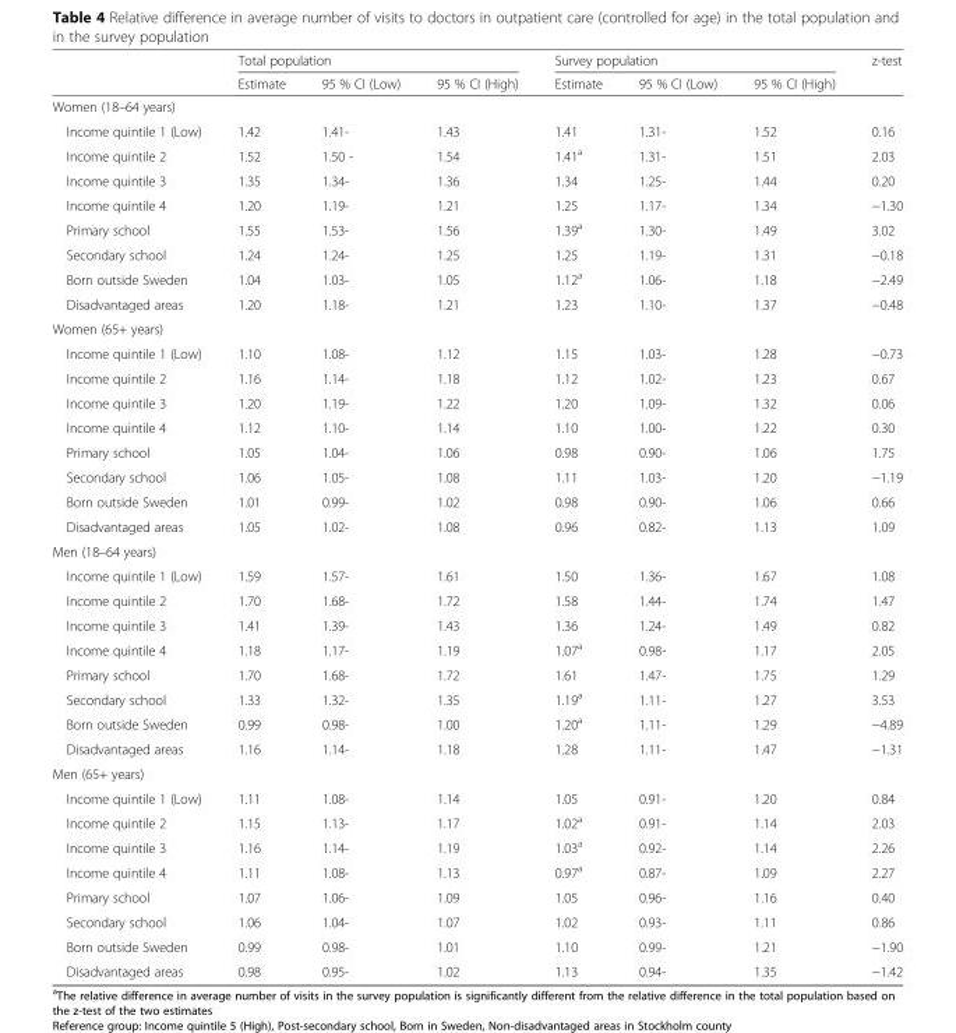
<table><thead><tr><td rowspan="2"></td><td colspan="3">Total population</td><td colspan="3">Survey population</td><td rowspan="2">z-test</td></tr><tr><td>Estimate</td><td>95 % CI (Low)</td><td>95 % CI (High)</td><td>Estimate</td><td>95 % CI (Low)</td><td>95 % CI (High)</td></tr></thead><tbody><tr><td colspan="8">Women (18–64 years)</td></tr><tr><td>Income quintile 1 (Low)</td><td>1.42</td><td>1.41-</td><td>1.43</td><td>1.41</td><td>1.31-</td><td>1.52</td><td>0.16</td></tr><tr><td>Income quintile 2</td><td>1.52</td><td>1.50 -</td><td>1.54</td><td>1.41<sup>a</sup></td><td>1.31-</td><td>1.51</td><td>2.03</td></tr><tr><td>Income quintile 3</td><td>1.35</td><td>1.34-</td><td>1.36</td><td>1.34</td><td>1.25-</td><td>1.44</td><td>0.20</td></tr><tr><td>Income quintile 4</td><td>1.20</td><td>1.19-</td><td>1.21</td><td>1.25</td><td>1.17-</td><td>1.34</td><td>−1.30</td></tr><tr><td>Primary school</td><td>1.55</td><td>1.53-</td><td>1.56</td><td>1.39<sup>a</sup></td><td>1.30-</td><td>1.49</td><td>3.02</td></tr><tr><td>Secondary school</td><td>1.24</td><td>1.24-</td><td>1.25</td><td>1.25</td><td>1.19-</td><td>1.31</td><td>−0.18</td></tr><tr><td>Born outside Sweden</td><td>1.04</td><td>1.03-</td><td>1.05</td><td>1.12<sup>a</sup></td><td>1.06-</td><td>1.18</td><td>−2.49</td></tr><tr><td>Disadvantaged areas</td><td>1.20</td><td>1.18-</td><td>1.21</td><td>1.23</td><td>1.10-</td><td>1.37</td><td>−0.48</td></tr><tr><td colspan="8">Women (65+ years)</td></tr><tr><td>Income quintile 1 (Low)</td><td>1.10</td><td>1.08-</td><td>1.12</td><td>1.15</td><td>1.03-</td><td>1.28</td><td>−0.73</td></tr><tr><td>Income quintile 2</td><td>1.16</td><td>1.14-</td><td>1.18</td><td>1.12</td><td>1.02-</td><td>1.23</td><td>0.67</td></tr><tr><td>Income quintile 3</td><td>1.20</td><td>1.19-</td><td>1.22</td><td>1.20</td><td>1.09-</td><td>1.32</td><td>0.06</td></tr><tr><td>Income quintile 4</td><td>1.12</td><td>1.10-</td><td>1.14</td><td>1.10</td><td>1.00-</td><td>1.22</td><td>0.30</td></tr><tr><td>Primary school</td><td>1.05</td><td>1.04-</td><td>1.06</td><td>0.98</td><td>0.90-</td><td>1.06</td><td>1.75</td></tr><tr><td>Secondary school</td><td>1.06</td><td>1.05-</td><td>1.08</td><td>1.11</td><td>1.03-</td><td>1.20</td><td>−1.19</td></tr><tr><td>Born outside Sweden</td><td>1.01</td><td>0.99-</td><td>1.02</td><td>0.98</td><td>0.90-</td><td>1.06</td><td>0.66</td></tr><tr><td>Disadvantaged areas</td><td>1.05</td><td>1.02-</td><td>1.08</td><td>0.96</td><td>0.82-</td><td>1.13</td><td>1.09</td></tr><tr><td colspan="8">Men (18–64 years)</td></tr><tr><td>Income quintile 1 (Low)</td><td>1.59</td><td>1.57-</td><td>1.61</td><td>1.50</td><td>1.36-</td><td>1.67</td><td>1.08</td></tr><tr><td>Income quintile 2</td><td>1.70</td><td>1.68-</td><td>1.72</td><td>1.58</td><td>1.44-</td><td>1.74</td><td>1.47</td></tr><tr><td>Income quintile 3</td><td>1.41</td><td>1.39-</td><td>1.43</td><td>1.36</td><td>1.24-</td><td>1.49</td><td>0.82</td></tr><tr><td>Income quintile 4</td><td>1.18</td><td>1.17-</td><td>1.19</td><td>1.07<sup>a</sup></td><td>0.98-</td><td>1.17</td><td>2.05</td></tr><tr><td>Primary school</td><td>1.70</td><td>1.68-</td><td>1.72</td><td>1.61</td><td>1.47-</td><td>1.75</td><td>1.29</td></tr><tr><td>Secondary school</td><td>1.33</td><td>1.32-</td><td>1.35</td><td>1.19<sup>a</sup></td><td>1.11-</td><td>1.27</td><td>3.53</td></tr><tr><td>Born outside Sweden</td><td>0.99</td><td>0.98-</td><td>1.00</td><td>1.20<sup>a</sup></td><td>1.11-</td><td>1.29</td><td>−4.89</td></tr><tr><td>Disadvantaged areas</td><td>1.16</td><td>1.14-</td><td>1.18</td><td>1.28</td><td>1.11-</td><td>1.47</td><td>−1.31</td></tr><tr><td colspan="8">Men (65+ years)</td></tr><tr><td>Income quintile 1 (Low)</td><td>1.11</td><td>1.08-</td><td>1.14</td><td>1.05</td><td>0.91-</td><td>1.20</td><td>0.84</td></tr><tr><td>Income quintile 2</td><td>1.15</td><td>1.13-</td><td>1.17</td><td>1.02<sup>a</sup></td><td>0.91-</td><td>1.14</td><td>2.03</td></tr><tr><td>Income quintile 3</td><td>1.16</td><td>1.14-</td><td>1.19</td><td>1.03<sup>a</sup></td><td>0.92-</td><td>1.14</td><td>2.26</td></tr><tr><td>Income quintile 4</td><td>1.11</td><td>1.08-</td><td>1.13</td><td>0.97<sup>a</sup></td><td>0.87-</td><td>1.09</td><td>2.27</td></tr><tr><td>Primary school</td><td>1.07</td><td>1.06-</td><td>1.09</td><td>1.05</td><td>0.96-</td><td>1.16</td><td>0.40</td></tr><tr><td>Secondary school</td><td>1.06</td><td>1.04-</td><td>1.07</td><td>1.02</td><td>0.93-</td><td>1.11</td><td>0.86</td></tr><tr><td>Born outside Sweden</td><td>0.99</td><td>0.98-</td><td>1.01</td><td>1.10</td><td>0.99-</td><td>1.21</td><td>−1.90</td></tr><tr><td>Disadvantaged areas</td><td>0.98</td><td>0.95-</td><td>1.02</td><td>1.13</td><td>0.94-</td><td>1.35</td><td>−1.42</td></tr></tbody></table>